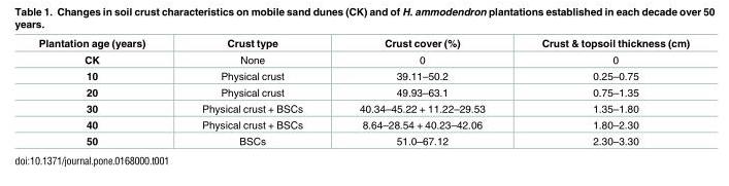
<table><thead><tr><td>Plantation age (years)</td><td>Crust type</td><td>Crust cover (%)</td><td>Crust &amp; topsoil thickness (cm)</td></tr></thead><tbody><tr><td>CK</td><td>None</td><td>0</td><td>0</td></tr><tr><td>10</td><td>Physical crust</td><td>39.11–50.2</td><td>0.25–0.75</td></tr><tr><td>20</td><td>Physical crust</td><td>49.93–63.1</td><td>0.75–1.35</td></tr><tr><td>30</td><td>Physical crust + BSCs</td><td>40.34–45.22 + 11.22–29.53</td><td>1.35–1.80</td></tr><tr><td>40</td><td>Physical crust + BSCs</td><td>8.64–28.54 + 40.23–42.06</td><td>1.80–2.30</td></tr><tr><td>50</td><td>BSCs</td><td>51.0–67.12</td><td>2.30–3.30</td></tr></tbody></table>